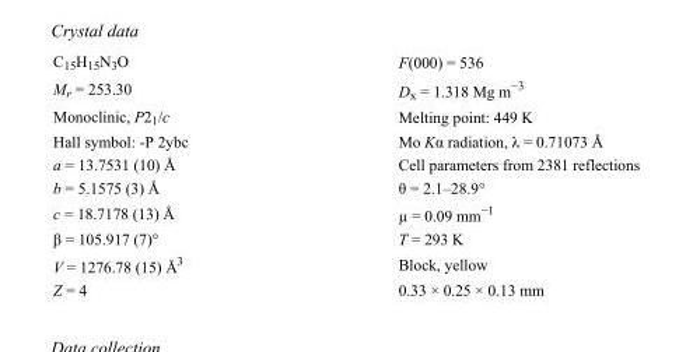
<table><tbody><tr><td>C<sub>15</sub>H<sub>15</sub>N<sub>3</sub>O</td><td>F(000) = 536</td></tr><tr><td>M<sub>r</sub> = 253.30</td><td>D<sub>x</sub> = 1.318 Mg m<sup>−3</sup></td></tr><tr><td>Monoclinic, P2<sub>1</sub>/c</td><td>Melting point: 449 K</td></tr><tr><td>Hall symbol: -P 2ybc</td><td>Mo Kα radiation, λ = 0.71073 Å</td></tr><tr><td>a = 13.7531 (10) Å</td><td>Cell parameters from 2381 reflections</td></tr><tr><td>b = 5.1575 (3) Å</td><td>θ = 2.1–28.9°</td></tr><tr><td>c = 18.7178 (13) Å</td><td>µ = 0.09 mm<sup>−1</sup></td></tr><tr><td>β = 105.917 (7)°</td><td>T = 293 K</td></tr><tr><td>V = 1276.78 (15) Å<sup>3</sup></td><td>Block, yellow</td></tr><tr><td>Z = 4</td><td>0.33 × 0.25 × 0.13 mm</td></tr></tbody></table>